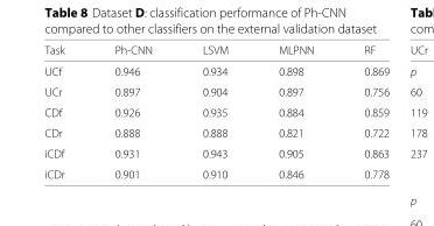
<table><thead><tr><td>Task</td><td>Ph-CNN</td><td>LSVM</td><td>MLPNN</td><td>RF</td></tr></thead><tbody><tr><td>UCf</td><td>0.946</td><td>0.934</td><td>0.898</td><td>0.869</td></tr><tr><td>UCr</td><td>0.897</td><td>0.904</td><td>0.897</td><td>0.756</td></tr><tr><td>CDf</td><td>0.926</td><td>0.935</td><td>0.884</td><td>0.859</td></tr><tr><td>CDr</td><td>0.888</td><td>0.888</td><td>0.821</td><td>0.722</td></tr><tr><td>iCDf</td><td>0.931</td><td>0.943</td><td>0.905</td><td>0.863</td></tr><tr><td>iCDr</td><td>0.901</td><td>0.910</td><td>0.846</td><td>0.778</td></tr></tbody></table>